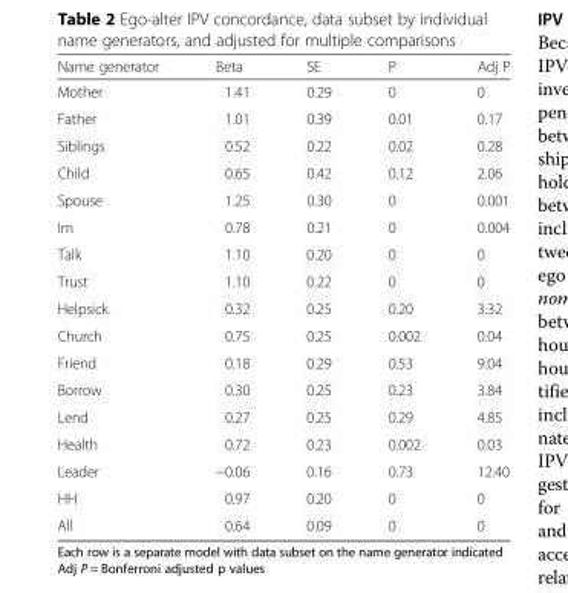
<table><thead><tr><td>Name generator</td><td>Beta</td><td>SE</td><td>P</td><td>Adj P</td></tr></thead><tbody><tr><td>Mother</td><td>1.41</td><td>0.29</td><td>0</td><td>0</td></tr><tr><td>Father</td><td>1.01</td><td>0.39</td><td>0.01</td><td>0.17</td></tr><tr><td>Siblings</td><td>0.52</td><td>0.22</td><td>0.02</td><td>0.28</td></tr><tr><td>Child</td><td>0.65</td><td>0.42</td><td>0.12</td><td>2.06</td></tr><tr><td>Spouse</td><td>1.25</td><td>0.30</td><td>0</td><td>0.001</td></tr><tr><td>Im</td><td>0.78</td><td>0.21</td><td>0</td><td>0.004</td></tr><tr><td>Talk</td><td>1.10</td><td>0.20</td><td>0</td><td>0</td></tr><tr><td>Trust</td><td>1.10</td><td>0.22</td><td>0</td><td>0</td></tr><tr><td>Helpsick</td><td>0.32</td><td>0.25</td><td>0.20</td><td>3.32</td></tr><tr><td>Church</td><td>0.75</td><td>0.25</td><td>0.002</td><td>0.04</td></tr><tr><td>Friend</td><td>0.18</td><td>0.29</td><td>0.53</td><td>9.04</td></tr><tr><td>Borrow</td><td>0.30</td><td>0.25</td><td>0.23</td><td>3.84</td></tr><tr><td>Lend</td><td>0.27</td><td>0.25</td><td>0.29</td><td>4.85</td></tr><tr><td>Health</td><td>0.72</td><td>0.23</td><td>0.002</td><td>0.03</td></tr><tr><td>Leader</td><td>−0.06</td><td>0.16</td><td>0.73</td><td>12.40</td></tr><tr><td>HH</td><td>0.97</td><td>0.20</td><td>0</td><td>0</td></tr><tr><td>All</td><td>0.64</td><td>0.09</td><td>0</td><td>0</td></tr></tbody></table>